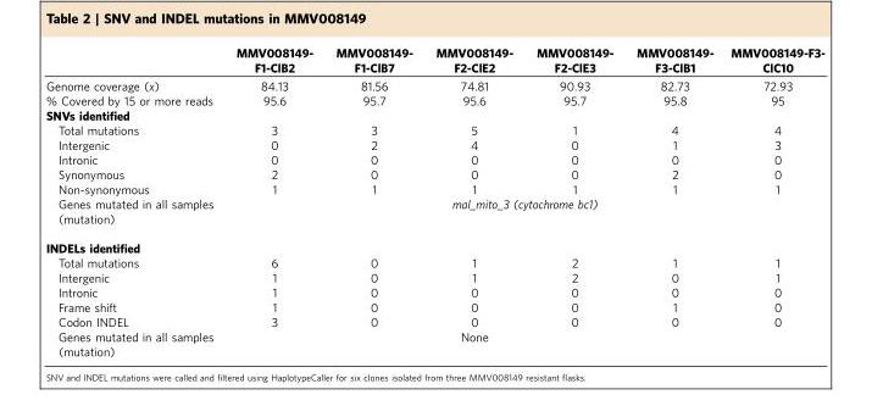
<table><thead><tr><td></td><td>MMV008149- F1-ClB2</td><td>MMV008149- F1-ClB7</td><td>MMV008149- F2-ClE2</td><td>MMV008149- F2-ClE3</td><td>MMV008149- F3-ClB1</td><td>MMV008149-F3- ClC10</td></tr></thead><tbody><tr><td>Genome coverage (x)</td><td>84.13</td><td>81.56</td><td>74.81</td><td>90.93</td><td>82.73</td><td>72.93</td></tr><tr><td>% Covered by 15 or more reads</td><td>95.6</td><td>95.7</td><td>95.6</td><td>95.7</td><td>95.8</td><td>95</td></tr><tr><td colspan="7">SNVs identified</td></tr><tr><td>Total mutations</td><td>3</td><td>3</td><td>5</td><td>1</td><td>4</td><td>4</td></tr><tr><td>Intergenic</td><td>0</td><td>2</td><td>4</td><td>0</td><td>1</td><td>3</td></tr><tr><td>Intronic</td><td>0</td><td>0</td><td>0</td><td>0</td><td>0</td><td>0</td></tr><tr><td>Synonymous</td><td>2</td><td>0</td><td>0</td><td>0</td><td>2</td><td>0</td></tr><tr><td>Non-synonymous</td><td>1</td><td>1</td><td>1</td><td>1</td><td>1</td><td>1</td></tr><tr><td>Genes mutated in all samples (mutation)</td><td></td><td></td><td colspan="2">mal_mito_3 (cytochrome bc1)</td><td></td><td></td></tr><tr><td colspan="7">INDELs identified</td></tr><tr><td>Total mutations</td><td>6</td><td>0</td><td>1</td><td>2</td><td>1</td><td>1</td></tr><tr><td>Intergenic</td><td>1</td><td>0</td><td>1</td><td>2</td><td>0</td><td>1</td></tr><tr><td>Intronic</td><td>1</td><td>0</td><td>0</td><td>0</td><td>0</td><td>0</td></tr><tr><td>Frame shift</td><td>1</td><td>0</td><td>0</td><td>0</td><td>1</td><td>0</td></tr><tr><td>Codon INDEL</td><td>3</td><td>0</td><td>0</td><td>0</td><td>0</td><td>0</td></tr><tr><td>Genes mutated in all samples (mutation)</td><td></td><td></td><td>None</td><td></td><td></td><td></td></tr></tbody></table>